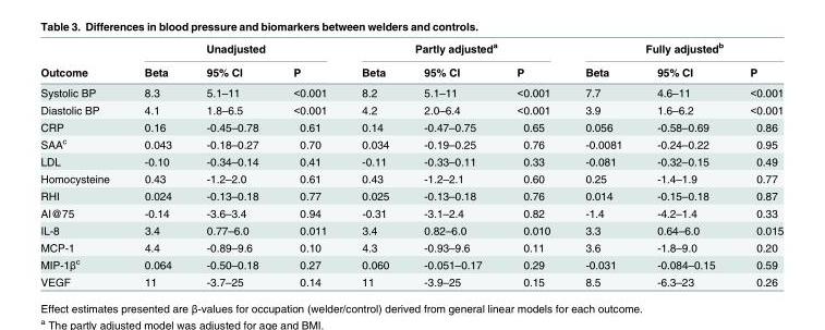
<table><thead><tr><td rowspan="2">Outcome</td><td colspan="3">Unadjusted</td><td colspan="3">Partly adjusted<sup>a</sup></td><td colspan="3">Fully adjusted<sup>b</sup></td></tr><tr><td>Beta</td><td>95% CI</td><td>P</td><td>Beta</td><td>95% CI</td><td>P</td><td>Beta</td><td>95% CI</td><td>P</td></tr></thead><tbody><tr><td>Systolic BP</td><td>8.3</td><td>5.1–11</td><td>&lt;0.001</td><td>8.2</td><td>5.1–11</td><td>&lt;0.001</td><td>7.7</td><td>4.6–11</td><td>&lt;0.001</td></tr><tr><td>Diastolic BP</td><td>4.1</td><td>1.8–6.5</td><td>&lt;0.001</td><td>4.2</td><td>2.0–6.4</td><td>&lt;0.001</td><td>3.9</td><td>1.6–6.2</td><td>&lt;0.001</td></tr><tr><td>CRP</td><td>0.16</td><td>-0.45–0.78</td><td>0.61</td><td>0.14</td><td>-0.47–0.75</td><td>0.65</td><td>0.056</td><td>-0.58–0.69</td><td>0.86</td></tr><tr><td>SAA<sup>c</sup></td><td>0.043</td><td>-0.18–0.27</td><td>0.70</td><td>0.034</td><td>-0.19–0.25</td><td>0.76</td><td>-0.0081</td><td>-0.24–0.22</td><td>0.95</td></tr><tr><td>LDL</td><td>-0.10</td><td>-0.34–0.14</td><td>0.41</td><td>-0.11</td><td>-0.33–0.11</td><td>0.33</td><td>-0.081</td><td>-0.32–0.15</td><td>0.49</td></tr><tr><td>Homocysteine</td><td>0.43</td><td>-1.2–2.0</td><td>0.61</td><td>0.43</td><td>-1.2–2.1</td><td>0.60</td><td>0.25</td><td>-1.4–1.9</td><td>0.77</td></tr><tr><td>RHI</td><td>0.024</td><td>-0.13–0.18</td><td>0.77</td><td>0.025</td><td>-0.13–0.18</td><td>0.76</td><td>0.014</td><td>-0.15–0.18</td><td>0.87</td></tr><tr><td>AI@75</td><td>-0.14</td><td>-3.6–3.4</td><td>0.94</td><td>-0.31</td><td>-3.1–2.4</td><td>0.82</td><td>-1.4</td><td>-4.2–1.4</td><td>0.33</td></tr><tr><td>IL-8</td><td>3.4</td><td>0.77–6.0</td><td>0.011</td><td>3.4</td><td>0.82–6.0</td><td>0.010</td><td>3.3</td><td>0.64–6.0</td><td>0.015</td></tr><tr><td>MCP-1</td><td>4.4</td><td>-0.89–9.6</td><td>0.10</td><td>4.3</td><td>-0.93–9.6</td><td>0.11</td><td>3.6</td><td>-1.8–9.0</td><td>0.20</td></tr><tr><td>MIP-1β<sup>c</sup></td><td>0.064</td><td>-0.50–0.18</td><td>0.27</td><td>0.060</td><td>-0.051–0.17</td><td>0.29</td><td>-0.031</td><td>-0.084–0.15</td><td>0.59</td></tr><tr><td>VEGF</td><td>11</td><td>-3.7–25</td><td>0.14</td><td>11</td><td>-3.9–25</td><td>0.15</td><td>8.5</td><td>-6.3–23</td><td>0.26</td></tr></tbody></table>